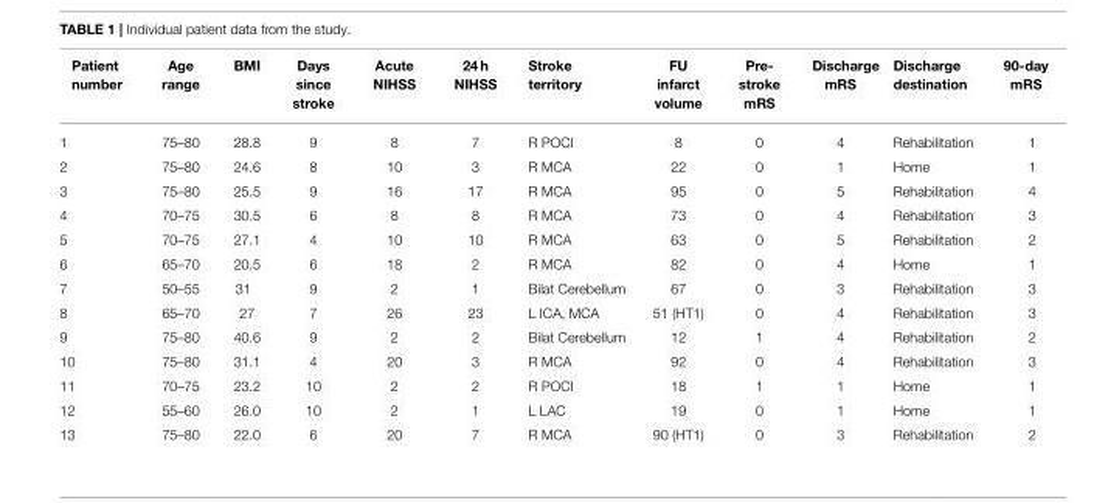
<table><thead><tr><td>Patient number</td><td>Age range</td><td>BMI</td><td>Days since stroke</td><td>Acute NIHSS</td><td>24 h NIHSS</td><td>Stroke territory</td><td>FU infarct volume</td><td>Pre- stroke mRS</td><td>Discharge mRS</td><td>Discharge destination</td><td>90-day mRS</td></tr></thead><tbody><tr><td>1</td><td>75–80</td><td>28.8</td><td>9</td><td>8</td><td>7</td><td>R POCI</td><td>8</td><td>0</td><td>4</td><td>Rehabilitation</td><td>1</td></tr><tr><td>2</td><td>75–80</td><td>24.6</td><td>8</td><td>10</td><td>3</td><td>R MCA</td><td>22</td><td>0</td><td>1</td><td>Home</td><td>1</td></tr><tr><td>3</td><td>75–80</td><td>25.5</td><td>9</td><td>16</td><td>17</td><td>R MCA</td><td>95</td><td>0</td><td>5</td><td>Rehabilitation</td><td>4</td></tr><tr><td>4</td><td>70–75</td><td>30.5</td><td>6</td><td>8</td><td>8</td><td>R MCA</td><td>73</td><td>0</td><td>4</td><td>Rehabilitation</td><td>3</td></tr><tr><td>5</td><td>70–75</td><td>27.1</td><td>4</td><td>10</td><td>10</td><td>R MCA</td><td>63</td><td>0</td><td>5</td><td>Rehabilitation</td><td>2</td></tr><tr><td>6</td><td>65–70</td><td>20.5</td><td>6</td><td>18</td><td>2</td><td>R MCA</td><td>82</td><td>0</td><td>4</td><td>Home</td><td>1</td></tr><tr><td>7</td><td>50–55</td><td>31</td><td>9</td><td>2</td><td>1</td><td>Bilat Cerebellum</td><td>67</td><td>0</td><td>3</td><td>Rehabilitation</td><td>3</td></tr><tr><td>8</td><td>65–70</td><td>27</td><td>7</td><td>26</td><td>23</td><td>L ICA, MCA</td><td>51 (HT1)</td><td>0</td><td>4</td><td>Rehabilitation</td><td>3</td></tr><tr><td>9</td><td>75–80</td><td>40.6</td><td>9</td><td>2</td><td>2</td><td>Bilat Cerebellum</td><td>12</td><td>1</td><td>4</td><td>Rehabilitation</td><td>2</td></tr><tr><td>10</td><td>75–80</td><td>31.1</td><td>4</td><td>20</td><td>3</td><td>R MCA</td><td>92</td><td>0</td><td>4</td><td>Rehabilitation</td><td>3</td></tr><tr><td>11</td><td>70–75</td><td>23.2</td><td>10</td><td>2</td><td>2</td><td>R POCI</td><td>18</td><td>1</td><td>1</td><td>Home</td><td>1</td></tr><tr><td>12</td><td>55–60</td><td>26.0</td><td>10</td><td>2</td><td>1</td><td>L LAC</td><td>19</td><td>0</td><td>1</td><td>Home</td><td>1</td></tr><tr><td>13</td><td>75–80</td><td>22.0</td><td>6</td><td>20</td><td>7</td><td>R MCA</td><td>90 (HT1)</td><td>0</td><td>3</td><td>Rehabilitation</td><td>2</td></tr></tbody></table>